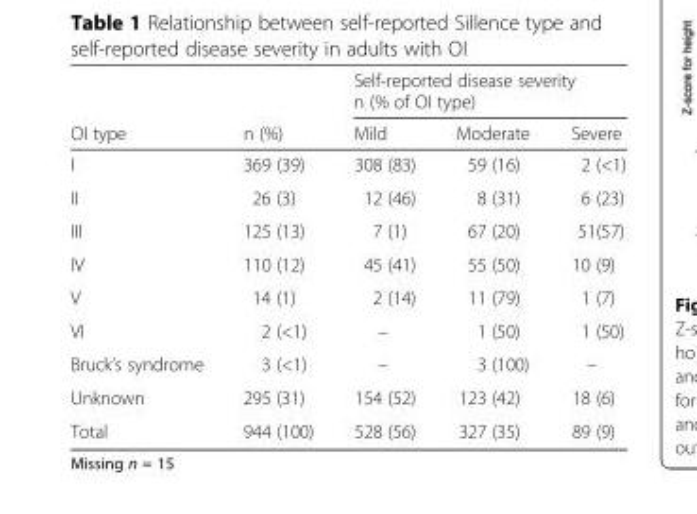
<table><thead><tr><td rowspan="3">OI type</td><td rowspan="3">n (%)</td><td rowspan="2" colspan="3">Self-reported disease severity n (% of OI type)</td></tr><tr></tr><tr><td>Mild</td><td>Moderate</td><td>Severe</td></tr></thead><tbody><tr><td>I</td><td>369 (39)</td><td>308 (83)</td><td>59 (16)</td><td>2 (&lt;1)</td></tr><tr><td>II</td><td>26 (3)</td><td>12 (46)</td><td>8 (31)</td><td>6 (23)</td></tr><tr><td>III</td><td>125 (13)</td><td>7 (1)</td><td>67 (20)</td><td>51(57)</td></tr><tr><td>IV</td><td>110 (12)</td><td>45 (41)</td><td>55 (50)</td><td>10 (9)</td></tr><tr><td>V</td><td>14 (1)</td><td>2 (14)</td><td>11 (79)</td><td>1 (7)</td></tr><tr><td>VI</td><td>2 (&lt;1)</td><td>–</td><td>1 (50)</td><td>1 (50)</td></tr><tr><td>Bruck’s syndrome</td><td>3 (&lt;1)</td><td>–</td><td>3 (100)</td><td>–</td></tr><tr><td>Unknown</td><td>295 (31)</td><td>154 (52)</td><td>123 (42)</td><td>18 (6)</td></tr><tr><td>Total</td><td>944 (100)</td><td>528 (56)</td><td>327 (35)</td><td>89 (9)</td></tr></tbody></table>